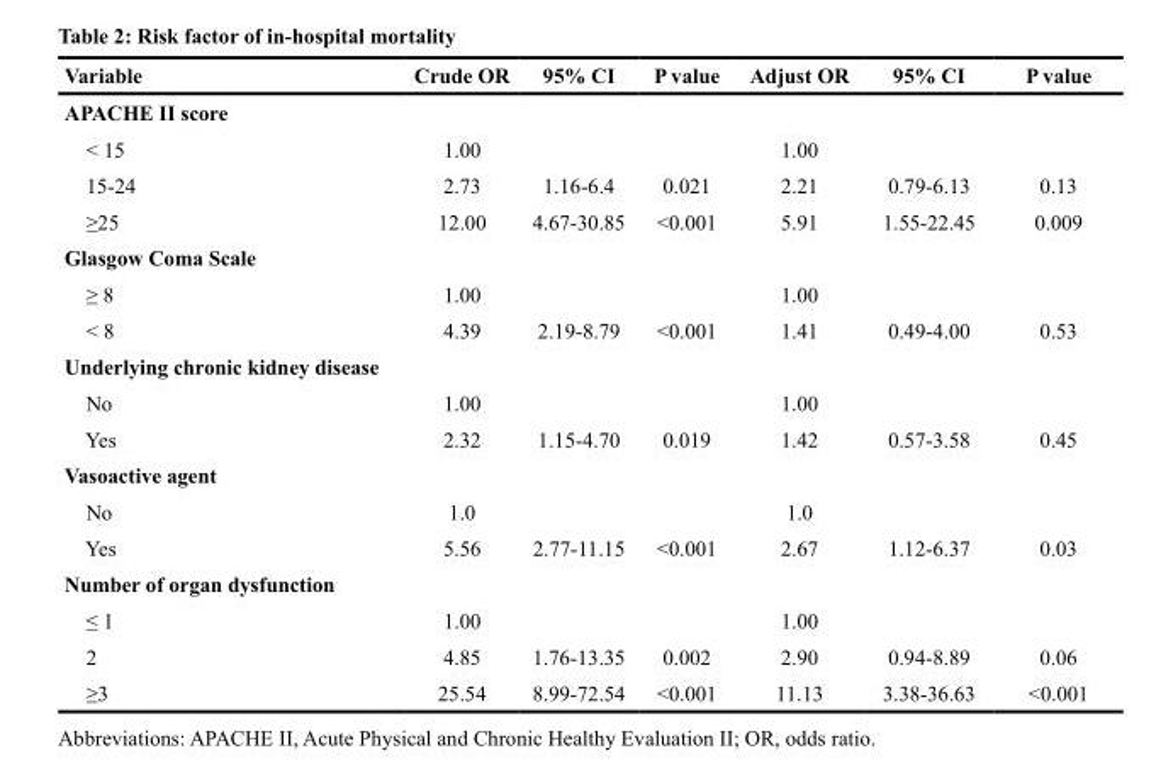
<table><thead><tr><td>Variable</td><td>Crude OR</td><td>95% CI</td><td>P value</td><td>Adjust OR</td><td>95% CI</td><td>P value</td></tr></thead><tbody><tr><td colspan="7">APACHE II score</td></tr><tr><td>&lt; 15</td><td>1.00</td><td></td><td></td><td>1.00</td><td></td><td></td></tr><tr><td>15-24</td><td>2.73</td><td>1.16-6.4</td><td>0.021</td><td>2.21</td><td>0.79-6.13</td><td>0.13</td></tr><tr><td>≥25</td><td>12.00</td><td>4.67-30.85</td><td>&lt;0.001</td><td>5.91</td><td>1.55-22.45</td><td>0.009</td></tr><tr><td colspan="7">Glasgow Coma Scale</td></tr><tr><td>≥ 8</td><td>1.00</td><td></td><td></td><td>1.00</td><td></td><td></td></tr><tr><td>&lt; 8</td><td>4.39</td><td>2.19-8.79</td><td>&lt;0.001</td><td>1.41</td><td>0.49-4.00</td><td>0.53</td></tr><tr><td colspan="7">Underlying chronic kidney disease</td></tr><tr><td>No</td><td>1.00</td><td></td><td></td><td>1.00</td><td></td><td></td></tr><tr><td>Yes</td><td>2.32</td><td>1.15-4.70</td><td>0.019</td><td>1.42</td><td>0.57-3.58</td><td>0.45</td></tr><tr><td colspan="7">Vasoactive agent</td></tr><tr><td>No</td><td>1.0</td><td></td><td></td><td>1.0</td><td></td><td></td></tr><tr><td>Yes</td><td>5.56</td><td>2.77-11.15</td><td>&lt;0.001</td><td>2.67</td><td>1.12-6.37</td><td>0.03</td></tr><tr><td colspan="7">Number of organ dysfunction</td></tr><tr><td>≤ 1</td><td>1.00</td><td></td><td></td><td>1.00</td><td></td><td></td></tr><tr><td>2</td><td>4.85</td><td>1.76-13.35</td><td>0.002</td><td>2.90</td><td>0.94-8.89</td><td>0.06</td></tr><tr><td>≥3</td><td>25.54</td><td>8.99-72.54</td><td>&lt;0.001</td><td>11.13</td><td>3.38-36.63</td><td>&lt;0.001</td></tr></tbody></table>